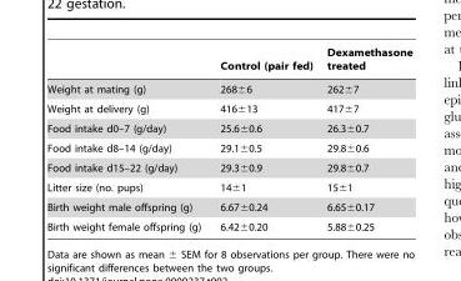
<table><thead><tr><td></td><td>Control (pair fed)</td><td>Dexamethasone treated</td></tr></thead><tbody><tr><td>Weight at mating (g)</td><td>268±6</td><td>262±7</td></tr><tr><td>Weight at delivery (g)</td><td>416±13</td><td>417±7</td></tr><tr><td>Food intake d0–7 (g/day)</td><td>25.6±0.6</td><td>26.3±0.7</td></tr><tr><td>Food intake d8–14 (g/day)</td><td>29.1±0.5</td><td>29.8±0.6</td></tr><tr><td>Food intake d15–22 (g/day)</td><td>29.3±0.9</td><td>29.8±0.7</td></tr><tr><td>Litter size (no. pups)</td><td>14±1</td><td>15±1</td></tr><tr><td>Birth weight male offspring (g)</td><td>6.67±0.24</td><td>6.65±0.17</td></tr><tr><td>Birth weight female offspring (g)</td><td>6.42±0.20</td><td>5.88±0.25</td></tr></tbody></table>